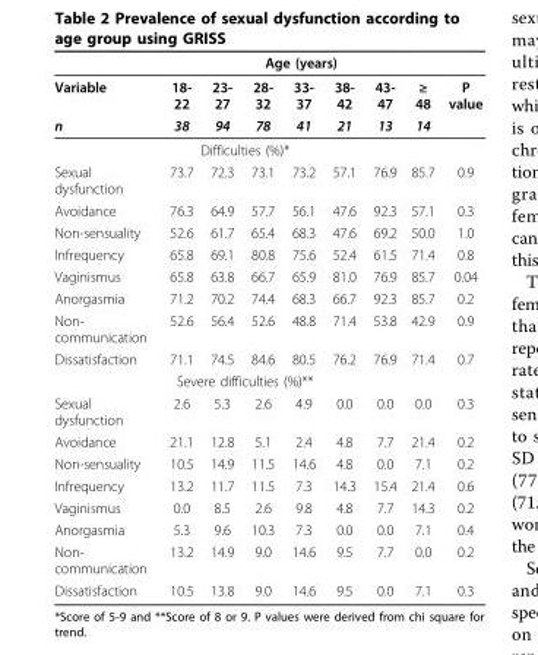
<table><thead><tr><td rowspan="2">Variable</td><td colspan="7">Age (years)</td><td rowspan="2">P value</td></tr><tr><td>18- 22</td><td>23- 27</td><td>28- 32</td><td>33- 37</td><td>38- 42</td><td>43- 47</td><td>≥ 48</td></tr></thead><tbody><tr><td>n</td><td>38</td><td>94</td><td>78</td><td>41</td><td>21</td><td>13</td><td>14</td><td></td></tr><tr><td colspan="9">Difficulties (%)*</td></tr><tr><td>Sexual dysfunction</td><td>73.7</td><td>72.3</td><td>73.1</td><td>73.2</td><td>57.1</td><td>76.9</td><td>85.7</td><td>0.9</td></tr><tr><td>Avoidance</td><td>76.3</td><td>64.9</td><td>57.7</td><td>56.1</td><td>47.6</td><td>92.3</td><td>57.1</td><td>0.3</td></tr><tr><td>Non-sensuality</td><td>52.6</td><td>61.7</td><td>65.4</td><td>68.3</td><td>47.6</td><td>69.2</td><td>50.0</td><td>1.0</td></tr><tr><td>Infrequency</td><td>65.8</td><td>69.1</td><td>80.8</td><td>75.6</td><td>52.4</td><td>61.5</td><td>71.4</td><td>0.8</td></tr><tr><td>Vaginismus</td><td>65.8</td><td>63.8</td><td>66.7</td><td>65.9</td><td>81.0</td><td>76.9</td><td>85.7</td><td>0.04</td></tr><tr><td>Anorgasmia</td><td>71.2</td><td>70.2</td><td>74.4</td><td>68.3</td><td>66.7</td><td>92.3</td><td>85.7</td><td>0.2</td></tr><tr><td>Non- communication</td><td>52.6</td><td>56.4</td><td>52.6</td><td>48.8</td><td>71.4</td><td>53.8</td><td>42.9</td><td>0.9</td></tr><tr><td>Dissatisfaction</td><td>71.1</td><td>74.5</td><td>84.6</td><td>80.5</td><td>76.2</td><td>76.9</td><td>71.4</td><td>0.7</td></tr><tr><td colspan="9">Severe difficulties (%)**</td></tr><tr><td>Sexual dysfunction</td><td>2.6</td><td>5.3</td><td>2.6</td><td>4.9</td><td>0.0</td><td>0.0</td><td>0.0</td><td>0.3</td></tr><tr><td>Avoidance</td><td>21.1</td><td>12.8</td><td>5.1</td><td>2.4</td><td>4.8</td><td>7.7</td><td>21.4</td><td>0.2</td></tr><tr><td>Non-sensuality</td><td>10.5</td><td>14.9</td><td>11.5</td><td>14.6</td><td>4.8</td><td>0.0</td><td>7.1</td><td>0.2</td></tr><tr><td>Infrequency</td><td>13.2</td><td>11.7</td><td>11.5</td><td>7.3</td><td>14.3</td><td>15.4</td><td>21.4</td><td>0.6</td></tr><tr><td>Vaginismus</td><td>0.0</td><td>8.5</td><td>2.6</td><td>9.8</td><td>4.8</td><td>7.7</td><td>14.3</td><td>0.2</td></tr><tr><td>Anorgasmia</td><td>5.3</td><td>9.6</td><td>10.3</td><td>7.3</td><td>0.0</td><td>0.0</td><td>7.1</td><td>0.4</td></tr><tr><td>Non- communication</td><td>13.2</td><td>14.9</td><td>9.0</td><td>14.6</td><td>9.5</td><td>7.7</td><td>0.0</td><td>0.2</td></tr><tr><td>Dissatisfaction</td><td>10.5</td><td>13.8</td><td>9.0</td><td>14.6</td><td>9.5</td><td>0.0</td><td>7.1</td><td>0.3</td></tr></tbody></table>